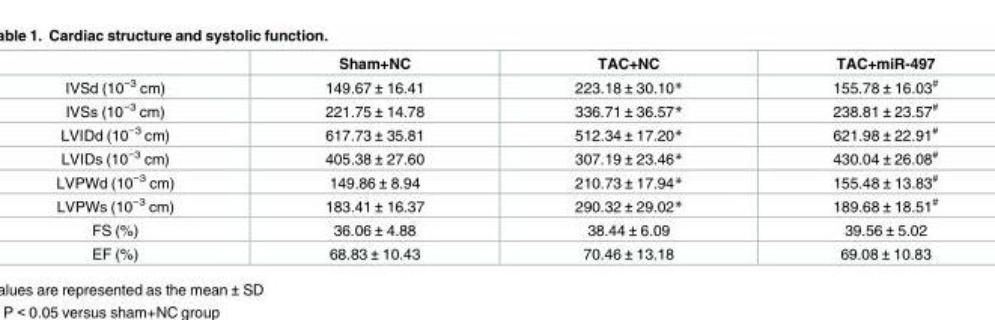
<table><thead><tr><td></td><td>Sham+NC</td><td>TAC+NC</td><td>TAC+miR-497</td></tr></thead><tbody><tr><td>IVSd (10<sup>−3</sup> cm)</td><td>149.67 ± 16.41</td><td>223.18 ± 30.10*</td><td>155.78 ± 16.03<sup>#</sup></td></tr><tr><td>IVSs (10<sup>−3</sup> cm)</td><td>221.75 ± 14.78</td><td>336.71 ± 36.57*</td><td>238.81 ± 23.57<sup>#</sup></td></tr><tr><td>LVIDd (10<sup>−3</sup> cm)</td><td>617.73 ± 35.81</td><td>512.34 ± 17.20*</td><td>621.98 ± 22.91<sup>#</sup></td></tr><tr><td>LVIDs (10<sup>−3</sup> cm)</td><td>405.38 ± 27.60</td><td>307.19 ± 23.46*</td><td>430.04 ± 26.08<sup>#</sup></td></tr><tr><td>LVPWd (10<sup>−3</sup> cm)</td><td>149.86 ± 8.94</td><td>210.73 ± 17.94*</td><td>155.48 ± 13.83<sup>#</sup></td></tr><tr><td>LVPWs (10<sup>−3</sup> cm)</td><td>183.41 ± 16.37</td><td>290.32 ± 29.02*</td><td>189.68 ± 18.51<sup>#</sup></td></tr><tr><td>FS (%)</td><td>36.06 ± 4.88</td><td>38.44 ± 6.09</td><td>39.56 ± 5.02</td></tr><tr><td>EF (%)</td><td>68.83 ± 10.43</td><td>70.46 ± 13.18</td><td>69.08 ± 10.83</td></tr></tbody></table>